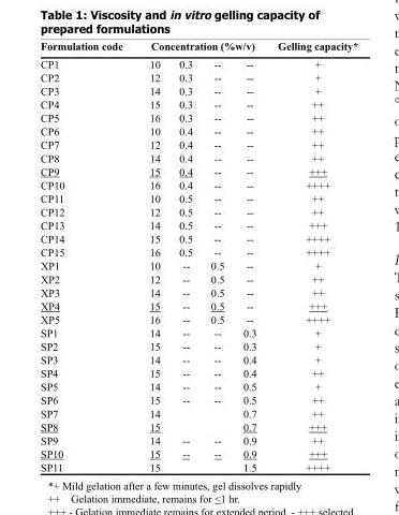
<table><thead><tr><td rowspan="2">Formulation code CP1</td><td colspan="4">Concentration (%w/v)</td><td rowspan="2">Gelling capacity* +</td></tr><tr><td>10</td><td>0.3</td><td>--</td><td>--</td></tr></thead><tbody><tr><td>CP2</td><td>12</td><td>0.3</td><td>--</td><td>--</td><td>+</td></tr><tr><td>CP3</td><td>14</td><td>0.3</td><td>--</td><td>--</td><td>+</td></tr><tr><td>CP4</td><td>15</td><td>0.3</td><td>--</td><td>--</td><td>++</td></tr><tr><td>CP5</td><td>16</td><td>0.3</td><td>--</td><td>--</td><td>++</td></tr><tr><td>CP6</td><td>10</td><td>0.4</td><td>--</td><td>--</td><td>++</td></tr><tr><td>CP7</td><td>12</td><td>0.4</td><td>--</td><td>--</td><td>++</td></tr><tr><td>CP8</td><td>14</td><td>0.4</td><td>--</td><td>--</td><td>++</td></tr><tr><td>CP9</td><td>15</td><td>0.4</td><td>--</td><td>--</td><td>+++</td></tr><tr><td>CP10</td><td>16</td><td>0.4</td><td>--</td><td>--</td><td>++++</td></tr><tr><td>CP11</td><td>10</td><td>0.5</td><td>--</td><td>--</td><td>++</td></tr><tr><td>CP12</td><td>12</td><td>0.5</td><td>--</td><td>--</td><td>++</td></tr><tr><td>CP13</td><td>14</td><td>0.5</td><td>--</td><td>--</td><td>+++</td></tr><tr><td>CP14</td><td>15</td><td>0.5</td><td>--</td><td>--</td><td>++++</td></tr><tr><td>CP15</td><td>16</td><td>0.5</td><td>--</td><td>--</td><td>++++</td></tr><tr><td>XP1</td><td>10</td><td>--</td><td>0.5</td><td>--</td><td>+</td></tr><tr><td>XP2</td><td>12</td><td>--</td><td>0.5</td><td>--</td><td>++</td></tr><tr><td>XP3</td><td>14</td><td>--</td><td>0.5</td><td>--</td><td>++</td></tr><tr><td>XP4</td><td>15</td><td>--</td><td>0.5</td><td>--</td><td>+++</td></tr><tr><td>XP5</td><td>16</td><td>--</td><td>0.5</td><td>--</td><td>++++</td></tr><tr><td>SP1</td><td>14</td><td>--</td><td>--</td><td>0.3</td><td>+</td></tr><tr><td>SP2</td><td>15</td><td>--</td><td>--</td><td>0.3</td><td>+</td></tr><tr><td>SP3</td><td>14</td><td>--</td><td>--</td><td>0.4</td><td>+</td></tr><tr><td>SP4</td><td>15</td><td>--</td><td>--</td><td>0.4</td><td>++</td></tr><tr><td>SP5</td><td>14</td><td>--</td><td>--</td><td>0.5</td><td>+</td></tr><tr><td>SP6</td><td>15</td><td>--</td><td>--</td><td>0.5</td><td>++</td></tr><tr><td>SP7</td><td>14</td><td></td><td></td><td>0.7</td><td>++</td></tr><tr><td>SP8</td><td>15</td><td></td><td></td><td>0.7</td><td>+++</td></tr><tr><td>SP9</td><td>14</td><td>--</td><td>--</td><td>0.9</td><td>++</td></tr><tr><td>SP10</td><td>15</td><td>--</td><td>--</td><td>0.9</td><td>+++</td></tr><tr><td>SP11</td><td>15</td><td></td><td></td><td>1.5</td><td>++++</td></tr></tbody></table>